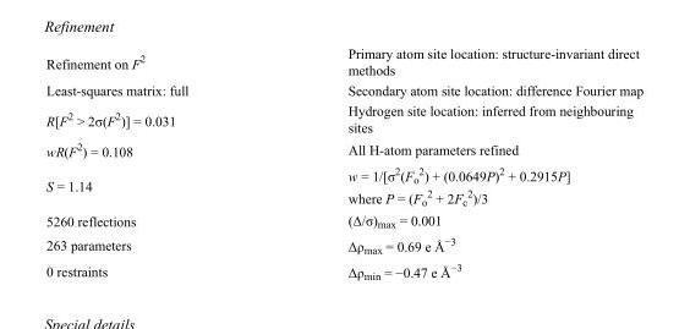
<table><tbody><tr><td>Refinement on F<sup>2</sup></td><td>Primary atom site location: structure-invariant direct methods</td></tr><tr><td>Least-squares matrix: full</td><td>Secondary atom site location: difference Fourier map</td></tr><tr><td>R[F<sup>2</sup> &gt; 2σ(F<sup>2</sup>)] = 0.031</td><td>Hydrogen site location: inferred from neighbouring sites</td></tr><tr><td>wR(F<sup>2</sup>) = 0.108</td><td>All H-atom parameters refined</td></tr><tr><td>S = 1.14</td><td>w = 1/[σ<sup>2</sup>(F<sub>o</sub> <sup>2</sup>) + (0.0649P)<sup>2</sup> + 0.2915P] where P = (F<sub>o</sub> <sup>2</sup> + 2F<sub>c</sub> <sup>2</sup>)/3</td></tr><tr><td>5260 reflections</td><td>(Δ/σ)<sub>max</sub> = 0.001</td></tr><tr><td>263 parameters</td><td>Δρ<sub>max</sub> = 0.69 e Å<sup>−3</sup></td></tr><tr><td>0 restraints</td><td>Δρ<sub>min</sub> = −0.47 e Å<sup>−3</sup></td></tr></tbody></table>